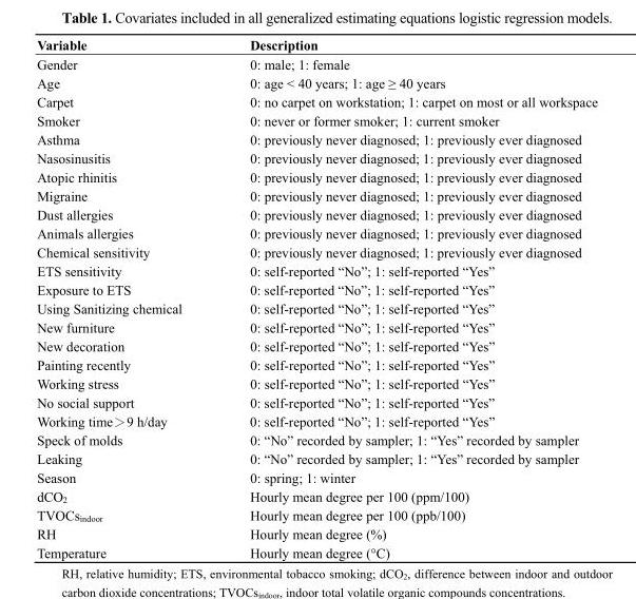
<table><thead><tr><td>Variable</td><td>Description</td></tr></thead><tbody><tr><td>Gender</td><td>0: male; 1: female</td></tr><tr><td>Age</td><td>0: age &lt; 40 years; 1: age ≥ 40 years</td></tr><tr><td>Carpet</td><td>0: no carpet on workstation; 1: carpet on most or all workspace</td></tr><tr><td>Smoker</td><td>0: never or former smoker; 1: current smoker</td></tr><tr><td>Asthma</td><td>0: previously never diagnosed; 1: previously ever diagnosed</td></tr><tr><td>Nasosinusitis</td><td>0: previously never diagnosed; 1: previously ever diagnosed</td></tr><tr><td>Atopic rhinitis</td><td>0: previously never diagnosed; 1: previously ever diagnosed</td></tr><tr><td>Migraine</td><td>0: previously never diagnosed; 1: previously ever diagnosed</td></tr><tr><td>Dust allergies</td><td>0: previously never diagnosed; 1: previously ever diagnosed</td></tr><tr><td>Animals allergies</td><td>0: previously never diagnosed; 1: previously ever diagnosed</td></tr><tr><td>Chemical sensitivity</td><td>0: previously never diagnosed; 1: previously ever diagnosed</td></tr><tr><td>ETS sensitivity</td><td>0: self-reported “No”; 1: self-reported “Yes”</td></tr><tr><td>Exposure to ETS</td><td>0: self-reported “No”; 1: self-reported “Yes”</td></tr><tr><td>Using Sanitizing chemical</td><td>0: self-reported “No”; 1: self-reported “Yes”</td></tr><tr><td>New furniture</td><td>0: self-reported “No”; 1: self-reported “Yes”</td></tr><tr><td>New decoration</td><td>0: self-reported “No”; 1: self-reported “Yes”</td></tr><tr><td>Painting recently</td><td>0: self-reported “No”; 1: self-reported “Yes”</td></tr><tr><td>Working stress</td><td>0: self-reported “No”; 1: self-reported “Yes”</td></tr><tr><td>No social support</td><td>0: self-reported “No”; 1: self-reported “Yes”</td></tr><tr><td>Working time＞9 h/day</td><td>0: self-reported “No”; 1: self-reported “Yes”</td></tr><tr><td>Speck of molds</td><td>0: “No” recorded by sampler; 1: “Yes” recorded by sampler</td></tr><tr><td>Leaking</td><td>0: “No” recorded by sampler; 1: “Yes” recorded by sampler</td></tr><tr><td>Season</td><td>0: spring; 1: winter</td></tr><tr><td>dCO<sub>2</sub></td><td>Hourly mean degree per 100 (ppm/100)</td></tr><tr><td>TVOCs<sub>indoor</sub></td><td>Hourly mean degree per 100 (ppb/100)</td></tr><tr><td>RH</td><td>Hourly mean degree (%)</td></tr><tr><td>Temperature</td><td>Hourly mean degree (°C)</td></tr></tbody></table>